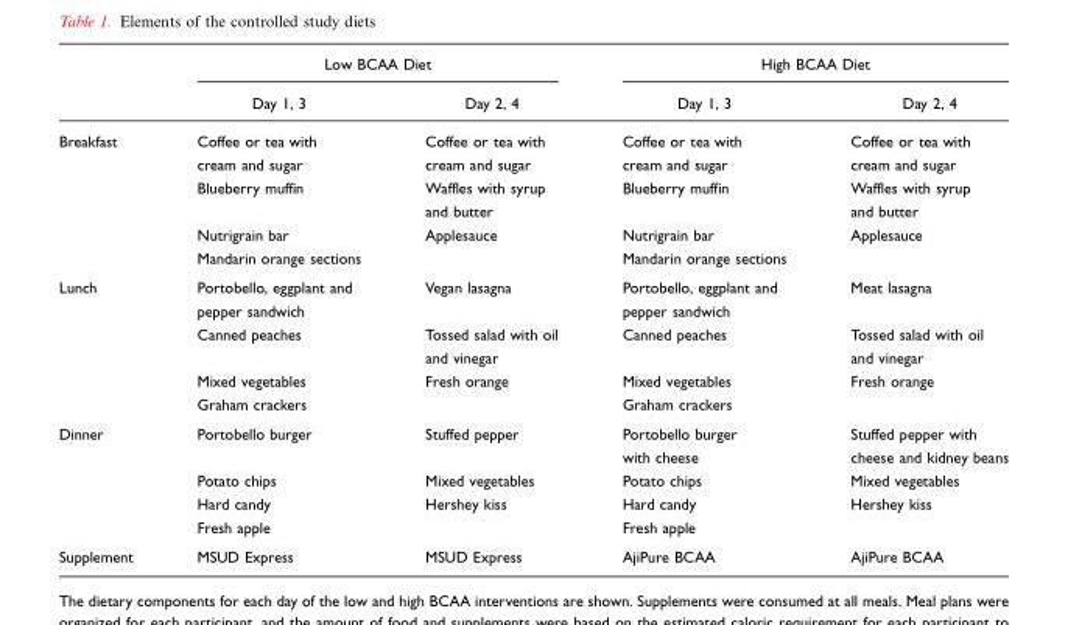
<table><thead><tr><td rowspan="2"></td><td colspan="2">Low BCAA Diet</td><td colspan="2">High BCAA Diet</td></tr><tr><td>Day 1, 3</td><td>Day 2, 4</td><td>Day 1, 3</td><td>Day 2, 4</td></tr></thead><tbody><tr><td rowspan="4">Breakfast</td><td>Coffee or tea with cream and sugar</td><td>Coffee or tea with cream and sugar</td><td>Coffee or tea with cream and sugar</td><td>Coffee or tea with cream and sugar</td></tr><tr><td>Blueberry muffin</td><td>Waffles with syrup and butter</td><td>Blueberry muffin</td><td>Waffles with syrup and butter</td></tr><tr><td>Nutrigrain bar</td><td>Applesauce</td><td>Nutrigrain bar</td><td>Applesauce</td></tr><tr><td>Mandarin orange sections</td><td></td><td>Mandarin orange sections</td><td></td></tr><tr><td rowspan="4">Lunch</td><td>Portobello, eggplant and pepper sandwich</td><td>Vegan lasagna</td><td>Portobello, eggplant and pepper sandwich</td><td>Meat lasagna</td></tr><tr><td>Canned peaches</td><td>Tossed salad with oil and vinegar</td><td>Canned peaches</td><td>Tossed salad with oil and vinegar</td></tr><tr><td>Mixed vegetables</td><td>Fresh orange</td><td>Mixed vegetables</td><td>Fresh orange</td></tr><tr><td>Graham crackers</td><td></td><td>Graham crackers</td><td></td></tr><tr><td rowspan="4">Dinner</td><td>Portobello burger</td><td>Stuffed pepper</td><td>Portobello burger with cheese</td><td>Stuffed pepper with cheese and kidney beans</td></tr><tr><td>Potato chips</td><td>Mixed vegetables</td><td>Potato chips</td><td>Mixed vegetables</td></tr><tr><td>Hard candy</td><td>Hershey kiss</td><td>Hard candy</td><td>Hershey kiss</td></tr><tr><td>Fresh apple</td><td></td><td>Fresh apple</td><td></td></tr><tr><td>Supplement</td><td>MSUD Express</td><td>MSUD Express</td><td>AjiPure BCAA</td><td>AjiPure BCAA</td></tr></tbody></table>